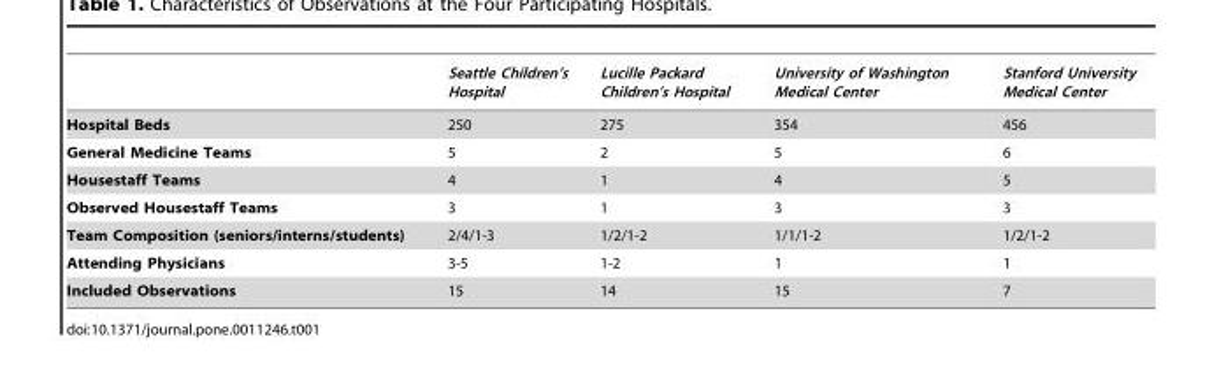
<table><thead><tr><td></td><td>Seattle Children’s Hospital</td><td>Lucille Packard Children’s Hospital</td><td>University of Washington Medical Center</td><td>Stanford University Medical Center</td></tr></thead><tbody><tr><td>Hospital Beds</td><td>250</td><td>275</td><td>354</td><td>456</td></tr><tr><td>General Medicine Teams</td><td>5</td><td>2</td><td>5</td><td>6</td></tr><tr><td>Housestaff Teams</td><td>4</td><td>1</td><td>4</td><td>5</td></tr><tr><td>Observed Housestaff Teams</td><td>3</td><td>1</td><td>3</td><td>3</td></tr><tr><td>Team Composition (seniors/interns/students)</td><td>2/4/1-3</td><td>1/2/1-2</td><td>1/1/1-2</td><td>1/2/1-2</td></tr><tr><td>Attending Physicians</td><td>3-5</td><td>1-2</td><td>1</td><td>1</td></tr><tr><td>Included Observations</td><td>15</td><td>14</td><td>15</td><td>7</td></tr></tbody></table>